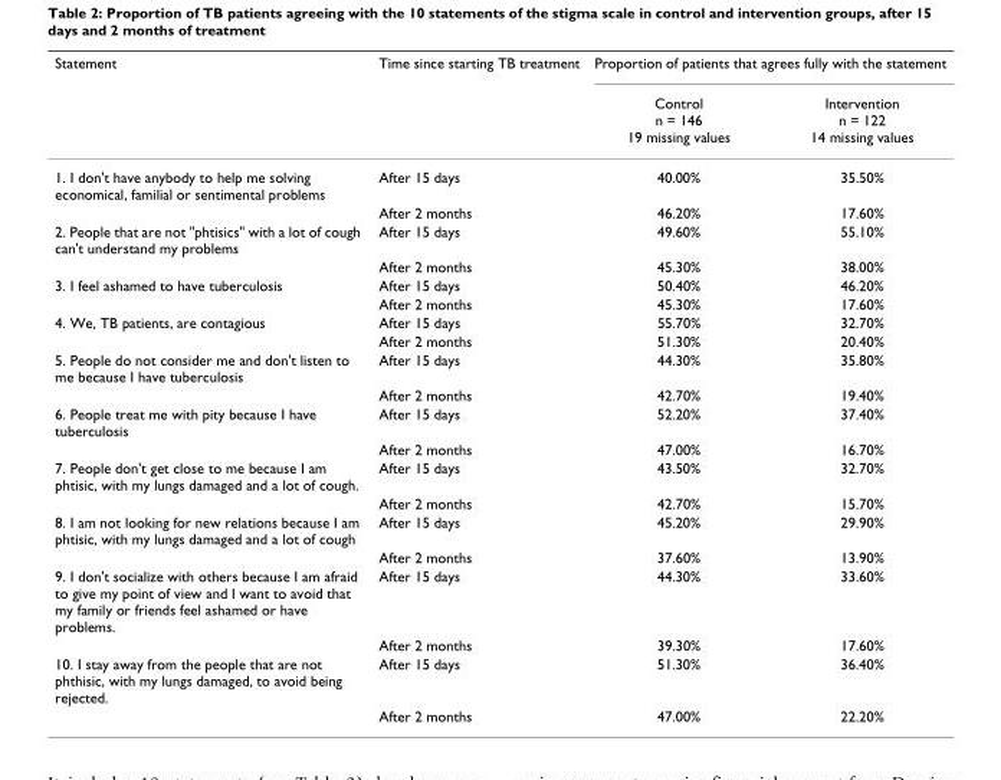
<table><thead><tr><td rowspan="2">Statement</td><td rowspan="2">Time since starting TB treatment</td><td colspan="2">Proportion of patients that agrees fully with the statement</td></tr><tr><td>Control n = 146 19 missing values</td><td>Intervention n = 122 14 missing values</td></tr></thead><tbody><tr><td rowspan="2">1. I don&#x27;t have anybody to help me solving economical, familial or sentimental problems</td><td>After 15 days</td><td>40.00%</td><td>35.50%</td></tr><tr><td>After 2 months</td><td>46.20%</td><td>17.60%</td></tr><tr><td rowspan="2">2. People that are not &quot;phtisics&quot; with a lot of cough can&#x27;t understand my problems</td><td>After 15 days</td><td>49.60%</td><td>55.10%</td></tr><tr><td>After 2 months</td><td>45.30%</td><td>38.00%</td></tr><tr><td rowspan="2">3. I feel ashamed to have tuberculosis</td><td>After 15 days</td><td>50.40%</td><td>46.20%</td></tr><tr><td>After 2 months</td><td>45.30%</td><td>17.60%</td></tr><tr><td rowspan="2">4. We, TB patients, are contagious</td><td>After 15 days</td><td>55.70%</td><td>32.70%</td></tr><tr><td>After 2 months</td><td>51.30%</td><td>20.40%</td></tr><tr><td rowspan="2">5. People do not consider me and don&#x27;t listen to me because I have tuberculosis</td><td>After 15 days</td><td>44.30%</td><td>35.80%</td></tr><tr><td>After 2 months</td><td>42.70%</td><td>19.40%</td></tr><tr><td rowspan="2">6. People treat me with pity because I have tuberculosis</td><td>After 15 days</td><td>52.20%</td><td>37.40%</td></tr><tr><td>After 2 months</td><td>47.00%</td><td>16.70%</td></tr><tr><td rowspan="2">7. People don&#x27;t get close to me because I am phtisic, with my lungs damaged and a lot of cough.</td><td>After 15 days</td><td>43.50%</td><td>32.70%</td></tr><tr><td>After 2 months</td><td>42.70%</td><td>15.70%</td></tr><tr><td rowspan="2">8. I am not looking for new relations because I am phtisic, with my lungs damaged and a lot of cough</td><td>After 15 days</td><td>45.20%</td><td>29.90%</td></tr><tr><td>After 2 months</td><td>37.60%</td><td>13.90%</td></tr><tr><td rowspan="2">9. I don&#x27;t socialize with others because I am afraid to give my point of view and I want to avoid that my family or friends feel ashamed or have problems.</td><td>After 15 days</td><td>44.30%</td><td>33.60%</td></tr><tr><td>After 2 months</td><td>39.30%</td><td>17.60%</td></tr><tr><td rowspan="2">10. I stay away from the people that are not phthisic, with my lungs damaged, to avoid being rejected.</td><td>After 15 days</td><td>51.30%</td><td>36.40%</td></tr><tr><td>After 2 months</td><td>47.00%</td><td>22.20%</td></tr></tbody></table>